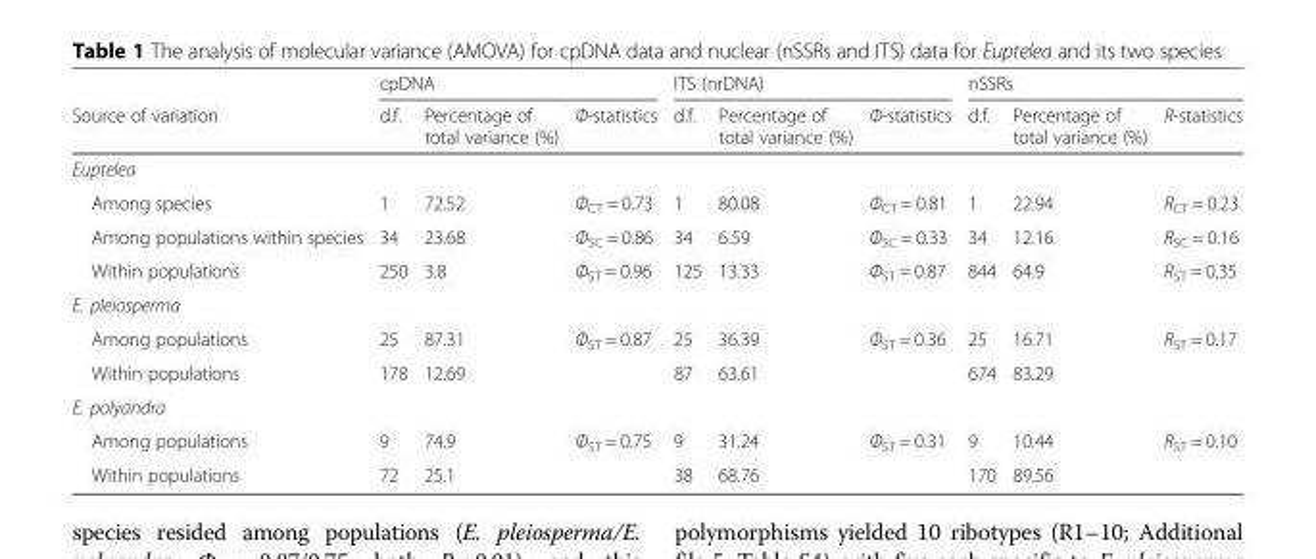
<table><thead><tr><td rowspan="2">Source of variation</td><td colspan="3">cpDNA</td><td colspan="3">ITS (nrDNA)</td><td colspan="3">nSSRs</td></tr><tr><td>d.f.</td><td>Percentage of total variance (%)</td><td>Φ-statistics</td><td>d.f.</td><td>Percentage of total variance (%)</td><td>Φ-statistics</td><td>d.f.</td><td>Percentage of total variance (%)</td><td>R-statistics</td></tr></thead><tbody><tr><td colspan="10">Euptelea</td></tr><tr><td>Among species</td><td>1</td><td>72.52</td><td>Φ<sub>CT</sub> = 0.73</td><td>1</td><td>80.08</td><td>Φ<sub>CT</sub> = 0.81</td><td>1</td><td>22.94</td><td>R<sub>CT</sub> = 0.23</td></tr><tr><td>Among populations within species</td><td>34</td><td>23.68</td><td>Φ<sub>SC</sub> = 0.86</td><td>34</td><td>6.59</td><td>Φ<sub>SC</sub> = 0.33</td><td>34</td><td>12.16</td><td>R<sub>SC</sub> = 0.16</td></tr><tr><td>Within populations</td><td>250</td><td>3.8</td><td>Φ<sub>ST</sub> = 0.96</td><td>125</td><td>13.33</td><td>Φ<sub>ST</sub> = 0.87</td><td>844</td><td>64.9</td><td>R<sub>ST</sub> = 0.35</td></tr><tr><td colspan="10">E. pleiosperma</td></tr><tr><td>Among populations</td><td>25</td><td>87.31</td><td>Φ<sub>ST</sub> = 0.87</td><td>25</td><td>36.39</td><td>Φ<sub>ST</sub> = 0.36</td><td>25</td><td>16.71</td><td>R<sub>ST</sub> = 0.17</td></tr><tr><td>Within populations</td><td>178</td><td>12.69</td><td></td><td>87</td><td>63.61</td><td></td><td>674</td><td>83.29</td><td></td></tr><tr><td colspan="10">E. polyandra</td></tr><tr><td>Among populations</td><td>9</td><td>74.9</td><td>Φ<sub>ST</sub> = 0.75</td><td>9</td><td>31.24</td><td>Φ<sub>ST</sub> = 0.31</td><td>9</td><td>10.44</td><td>R<sub>ST</sub> = 0.10</td></tr><tr><td>Within populations</td><td>72</td><td>25.1</td><td></td><td>38</td><td>68.76</td><td></td><td>170</td><td>89.56</td><td></td></tr></tbody></table>